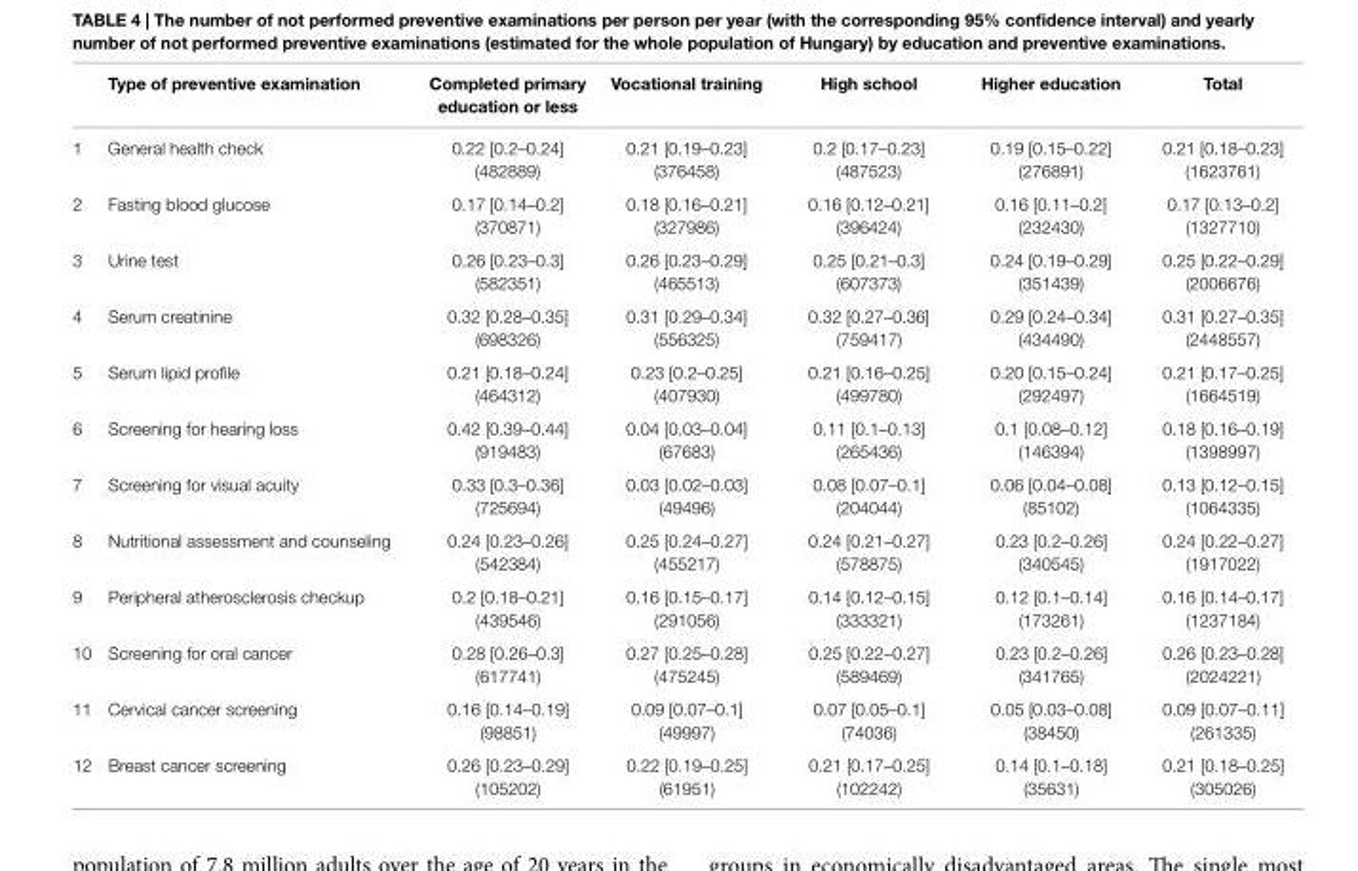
<table><thead><tr><td></td><td>Type of preventive examination</td><td>completed primary education or less</td><td>Vocational training</td><td>high school</td><td>higher education</td><td>Total</td></tr></thead><tbody><tr><td>1</td><td>General health check</td><td>0.22 [0.2–0.24] (482889)</td><td>0.21 [0.19–0.23] (376458)</td><td>0.2 [0.17–0.23] (487523)</td><td>0.19 [0.15–0.22] (276891)</td><td>0.21 [0.18–0.23] (1623761)</td></tr><tr><td>2</td><td>Fasting blood glucose</td><td>0.17 [0.14–0.2] (370871)</td><td>0.18 [0.16–0.21] (327986)</td><td>0.16 [0.12–0.21] (396424)</td><td>0.16 [0.11–0.2] (232430)</td><td>0.17 [0.13–0.2] (1327710)</td></tr><tr><td>3</td><td>Urine test</td><td>0.26 [0.23–0.3] (582351)</td><td>0.26 [0.23–0.29] (465513)</td><td>0.25 [0.21–0.3] (607373)</td><td>0.24 [0.19–0.29] (351439)</td><td>0.25 [0.22–0.29] (2006676)</td></tr><tr><td>4</td><td>Serum creatinine</td><td>0.32 [0.28–0.35] (698326)</td><td>0.31 [0.29–0.34] (556325)</td><td>0.32 [0.27–0.36] (759417)</td><td>0.29 [0.24–0.34] (434490)</td><td>0.31 [0.27–0.35] (2448557)</td></tr><tr><td>5</td><td>Serum lipid profile</td><td>0.21 [0.18–0.24] (464312)</td><td>0.23 [0.2–0.25] (407930)</td><td>0.21 [0.16–0.25] (499780)</td><td>0.20 [0.15–0.24] (292497)</td><td>0.21 [0.17–0.25] (1664519)</td></tr><tr><td>6</td><td>Screening for hearing loss</td><td>0.42 [0.39–0.44] (919483)</td><td>0.04 [0.03–0.04] (67683)</td><td>0.11 [0.1–0.13] (265436)</td><td>0.1 [0.08–0.12] (146394)</td><td>0.18 [0.16–0.19] (1398997)</td></tr><tr><td>7</td><td>Screening for visual acuity</td><td>0.33 [0.3–0.36] (725694)</td><td>0.03 [0.02–0.03] (49496)</td><td>0.08 [0.07–0.1] (204044)</td><td>0.06 [0.04–0.08] (85102)</td><td>0.13 [0.12–0.15] (1064335)</td></tr><tr><td>8</td><td>Nutritional assessment and counseling</td><td>0.24 [0.23–0.26] (542384)</td><td>0.25 [0.24–0.27] (455217)</td><td>0.24 [0.21–0.27] (578875)</td><td>0.23 [0.2–0.26] (340545)</td><td>0.24 [0.22–0.27] (1917022)</td></tr><tr><td>9</td><td>Peripheral atherosclerosis checkup</td><td>0.2 [0.18–0.21] (439546)</td><td>0.16 [0.15–0.17] (291056)</td><td>0.14 [0.12–0.15] (333321)</td><td>0.12 [0.1–0.14] (173261)</td><td>0.16 [0.14–0.17] (1237184)</td></tr><tr><td>10</td><td>Screening for oral cancer</td><td>0.28 [0.26–0.3] (617741)</td><td>0.27 [0.25–0.28] (475245)</td><td>0.25 [0.22–0.27] (589469)</td><td>0.23 [0.2–0.26] (341765)</td><td>0.26 [0.23–0.28] (2024221)</td></tr><tr><td>11</td><td>Cervical cancer screening</td><td>0.16 [0.14–0.19] (98851)</td><td>0.09 [0.07–0.1] (49997)</td><td>0.07 [0.05–0.1] (74036)</td><td>0.05 [0.03–0.08] (38450)</td><td>0.09 [0.07–0.11] (261335)</td></tr><tr><td>12</td><td>Breast cancer screening</td><td>0.26 [0.23–0.29] (105202)</td><td>0.22 [0.19–0.25] (61951)</td><td>0.21 [0.17–0.25] (102242)</td><td>0.14 [0.1–0.18] (35631)</td><td>0.21 [0.18–0.25] (305026)</td></tr></tbody></table>